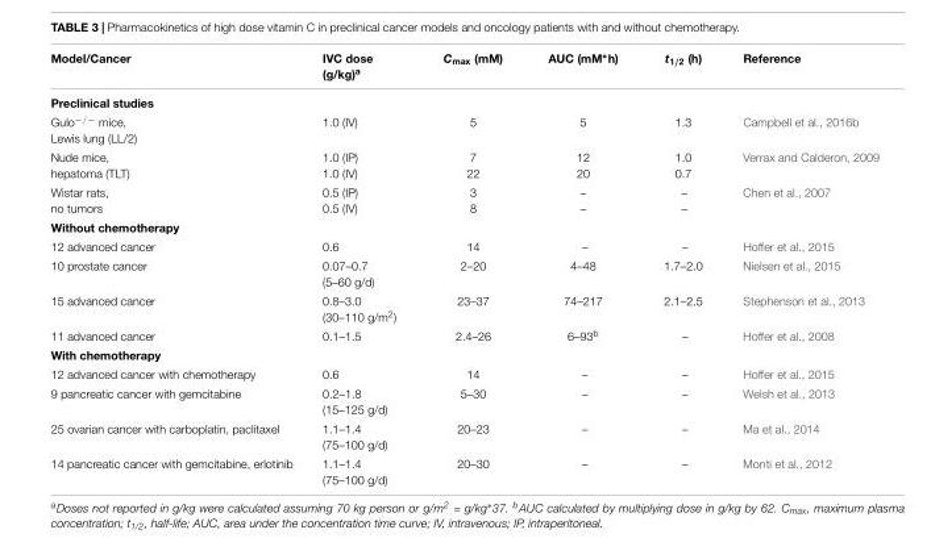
<table><thead><tr><td>Model/Cancer</td><td>IVC dose (g/kg)<sup>a</sup></td><td>C<sub>max</sub> (mM)</td><td>AUC (mM∗h)</td><td>t<sub>1/2</sub> (h)</td><td>Reference</td></tr></thead><tbody><tr><td colspan="6">Preclinical studies</td></tr><tr><td>Gulo<sup>−/−</sup> mice, Lewis lung (LL/2)</td><td>1.0 (IV)</td><td>5</td><td>5</td><td>1.3</td><td>Campbell et al., 2016b</td></tr><tr><td>Nude mice, hepatoma (TLT)</td><td>1.0 (IP) 1.0 (IV)</td><td>7 22</td><td>12 20</td><td>1.0 0.7</td><td>Verrax and Calderon, 2009</td></tr><tr><td>Wistar rats, no tumors</td><td>0.5 (IP) 0.5 (IV)</td><td>3 8</td><td>– –</td><td>– –</td><td>Chen et al., 2007</td></tr><tr><td colspan="6">Without chemotherapy</td></tr><tr><td>12 advanced cancer</td><td>0.6</td><td>14</td><td>–</td><td>–</td><td>Hoffer et al., 2015</td></tr><tr><td>10 prostate cancer</td><td>0.07–0.7 (5–60 g/d)</td><td>2–20</td><td>4–48</td><td>1.7–2.0</td><td>Nielsen et al., 2015</td></tr><tr><td>15 advanced cancer</td><td>0.8–3.0 (30–110 g/m<sup>2</sup>)</td><td>23–37</td><td>74–217</td><td>2.1–2.5</td><td>Stephenson et al., 2013</td></tr><tr><td>11 advanced cancer</td><td>0.1–1.5</td><td>2.4–26</td><td>6–93<sup>b</sup></td><td>–</td><td>Hoffer et al., 2008</td></tr><tr><td colspan="6">With chemotherapy</td></tr><tr><td>12 advanced cancer with chemotherapy</td><td>0.6</td><td>14</td><td>–</td><td>–</td><td>Hoffer et al., 2015</td></tr><tr><td>9 pancreatic cancer with gemcitabine</td><td>0.2–1.8 (15–125 g/d)</td><td>5–30</td><td>–</td><td>–</td><td>Welsh et al., 2013</td></tr><tr><td>25 ovarian cancer with carboplatin, paclitaxel</td><td>1.1–1.4 (75–100 g/d)</td><td>20–23</td><td>–</td><td>–</td><td>Ma et al., 2014</td></tr><tr><td>14 pancreatic cancer with gemcitabine, erlotinib</td><td>1.1–1.4 (75–100 g/d)</td><td>20–30</td><td>–</td><td>–</td><td>Monti et al., 2012</td></tr></tbody></table>